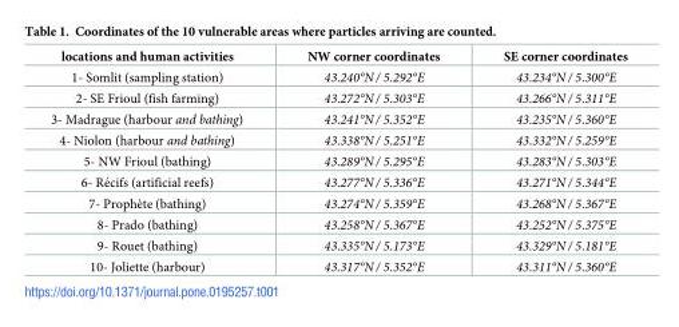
<table><thead><tr><td>locations and human activities</td><td>NW corner coordinates</td><td>SE corner coordinates</td></tr></thead><tbody><tr><td>1- Somlit (sampling station)</td><td>43.240°N / 5.292°E</td><td>43.234°N / 5.300°E</td></tr><tr><td>2- SE Frioul (fish farming)</td><td>43.272°N / 5.303°E</td><td>43.266°N / 5.311°E</td></tr><tr><td>3- Madrague (harbour and bathing)</td><td>43.241°N / 5.352°E</td><td>43.235°N / 5.360°E</td></tr><tr><td>4- Niolon (harbour and bathing)</td><td>43.338°N / 5.251°E</td><td>43.332°N / 5.259°E</td></tr><tr><td>5- NW Frioul (bathing)</td><td>43.289°N / 5.295°E</td><td>43.283°N / 5.303°E</td></tr><tr><td>6- Re´cifs (artificial reefs)</td><td>43.277°N / 5.336°E</td><td>43.271°N / 5.344°E</td></tr><tr><td>7- Prophète (bathing)</td><td>43.274°N / 5.359°E</td><td>43.268°N / 5.367°E</td></tr><tr><td>8- Prado (bathing)</td><td>43.258°N / 5.367°E</td><td>43.252°N / 5.375°E</td></tr><tr><td>9- Rouet (bathing)</td><td>43.335°N / 5.173°E</td><td>43.329°N / 5.181°E</td></tr><tr><td>10- Joliette (harbour)</td><td>43.317°N / 5.352°E</td><td>43.311°N / 5.360°E</td></tr></tbody></table>